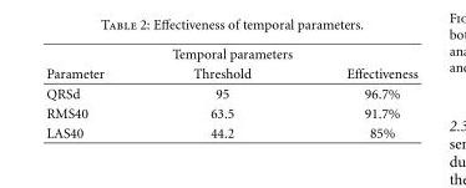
<table><thead><tr><td colspan="3">Temporal parameters</td></tr><tr><td>Parameter</td><td>Threshold</td><td>Effectiveness</td></tr></thead><tbody><tr><td>QRSd</td><td>95</td><td>96.7%</td></tr><tr><td>RMS40</td><td>63.5</td><td>91.7%</td></tr><tr><td>LAS40</td><td>44.2</td><td>85%</td></tr></tbody></table>